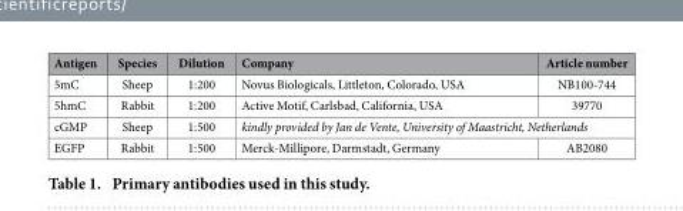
<table><thead><tr><td>Antigen</td><td>Species</td><td>Dilution</td><td>Company</td><td>Article number</td></tr></thead><tbody><tr><td>5mC</td><td>Sheep</td><td>1:200</td><td>Novus Biologicals, Littleton, Colorado, USA</td><td>NB100-744</td></tr><tr><td>5hmC</td><td>Rabbit</td><td>1:200</td><td>Active Motif, Carlsbad, California, USA</td><td>39770</td></tr><tr><td>cGMP</td><td>Sheep</td><td>1:500</td><td colspan="2">kindly provided by Jan de Vente, University of Maastricht, Netherlands</td></tr><tr><td>EGFP</td><td>Rabbit</td><td>1:500</td><td>Merck-Millipore, Darmstadt, Germany</td><td>AB2080</td></tr></tbody></table>